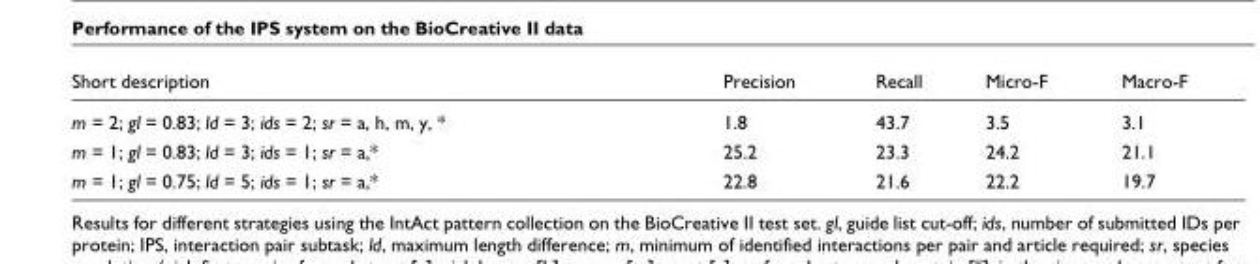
<table><thead><tr><td>Short description</td><td>Precision</td><td>Recall</td><td>Micro-F</td><td>Macro-F</td></tr></thead><tbody><tr><td>m = 2; gl = 0.83; ld = 3; ids = 2; sr = a, h, m, y, *</td><td>1.8</td><td>43.7</td><td>3.5</td><td>3.1</td></tr><tr><td>m = 1; gl = 0.83; ld = 3; ids = 1; sr = a,*</td><td>25.2</td><td>23.3</td><td>24.2</td><td>21.1</td></tr><tr><td>m = 1; gl = 0.75; ld = 5; ids = 1; sr = a,*</td><td>22.8</td><td>21.6</td><td>22.2</td><td>19.7</td></tr></tbody></table>